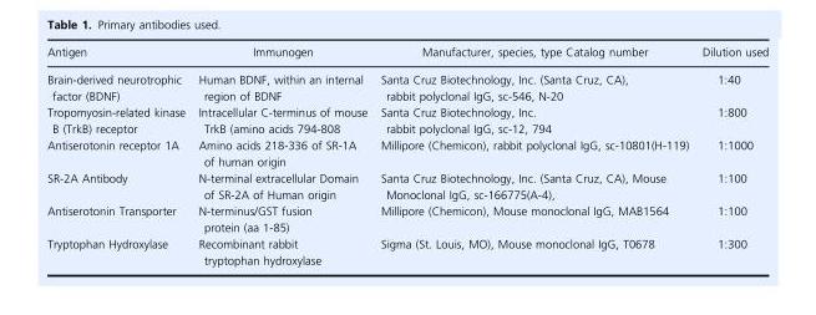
<table><thead><tr><td>Antigen</td><td>Immunogen</td><td>Manufacturer, species, type Catalog number</td><td>Dilution used</td></tr></thead><tbody><tr><td>Brain-derived neurotrophic factor (BDNF)</td><td>Human BDNF, within an internal region of BDNF</td><td>Santa Cruz Biotechnology, Inc. (Santa Cruz, CA), rabbit polyclonal IgG, sc-546, N-20</td><td>1:40</td></tr><tr><td>Tropomyosin-related kinase B (TrkB) receptor</td><td>Intracellular C-terminus of mouse TrkB (amino acids 794-808</td><td>Santa Cruz Biotechnology, Inc. rabbit polyclonal IgG, sc-12, 794</td><td>1:800</td></tr><tr><td>Antiserotonin receptor 1A</td><td>Amino acids 218-336 of SR-1A of human origin</td><td>Millipore (Chemicon), rabbit polyclonal IgG, sc-10801(H-119)</td><td>1:1000</td></tr><tr><td>SR-2A Antibody</td><td>N-terminal extracellular Domain of SR-2A of Human origin</td><td>Santa Cruz Biotechnology, Inc. (Santa Cruz, CA), Mouse Monoclonal IgG, sc-166775(A-4),</td><td>1:100</td></tr><tr><td>Antiserotonin Transporter</td><td>N-terminus/GST fusion protein (aa 1-85)</td><td>Millipore (Chemicon), Mouse monoclonal IgG, MAB1564</td><td>1:100</td></tr><tr><td>Tryptophan Hydroxylase</td><td>Recombinant rabbit tryptophan hydroxylase</td><td>Sigma (St. Louis, MO), Mouse monoclonal IgG, T0678</td><td>1:300</td></tr></tbody></table>